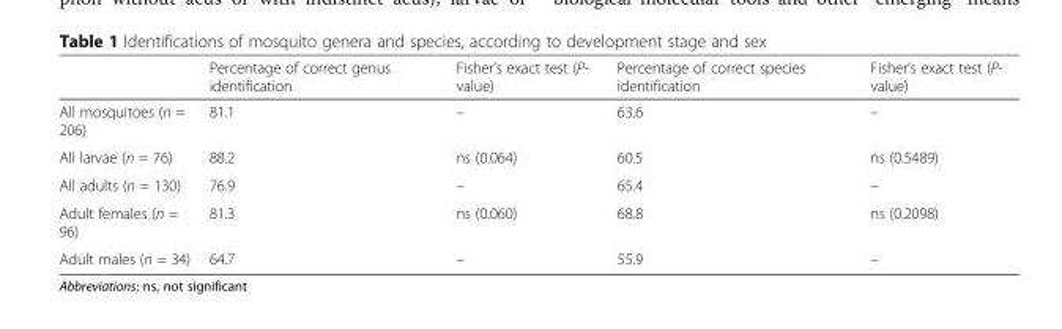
<table><thead><tr><td></td><td>Percentage of correct genus identification</td><td>Fisher’s exact test (P- value)</td><td>Percentage of correct species identification</td><td>Fisher’s exact test (P- value)</td></tr></thead><tbody><tr><td>All mosquitoes (n = 206)</td><td>81.1</td><td>–</td><td>63.6</td><td>–</td></tr><tr><td>All larvae (n = 76)</td><td>88.2</td><td>ns (0.064)</td><td>60.5</td><td>ns (0.5489)</td></tr><tr><td>All adults (n = 130)</td><td>76.9</td><td>–</td><td>65.4</td><td>–</td></tr><tr><td>Adult females (n = 96)</td><td>81.3</td><td>ns (0.060)</td><td>68.8</td><td>ns (0.2098)</td></tr><tr><td>Adult males (n = 34)</td><td>64.7</td><td>–</td><td>55.9</td><td>–</td></tr></tbody></table>